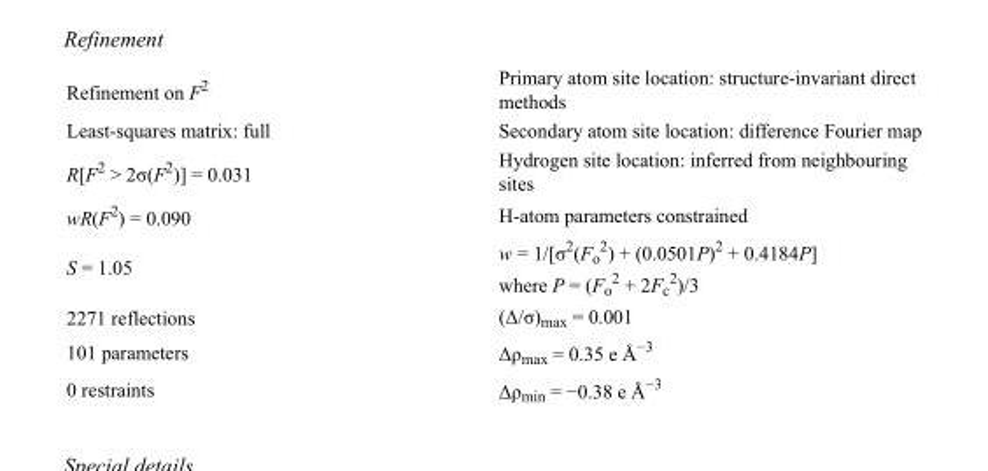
<table><tbody><tr><td>Refinement on F<sup>2</sup></td><td>Primary atom site location: structure-invariant direct methods</td></tr><tr><td>Least-squares matrix: full</td><td>Secondary atom site location: difference Fourier map</td></tr><tr><td>R[F<sup>2</sup> &gt; 2σ(F<sup>2</sup>)] = 0.031</td><td>Hydrogen site location: inferred from neighbouring sites</td></tr><tr><td>wR(F<sup>2</sup>) = 0.090</td><td>H-atom parameters constrained</td></tr><tr><td>S = 1.05</td><td>w = 1/[σ<sup>2</sup>(F<sub>o</sub> <sup>2</sup>) + (0.0501P)<sup>2</sup> + 0.4184P] where P = (F<sub>o</sub> <sup>2</sup> + 2F<sub>c</sub> <sup>2</sup>)/3</td></tr><tr><td>2271 reflections</td><td>(Δ/σ)<sub>max</sub> = 0.001</td></tr><tr><td>101 parameters</td><td>Δρ<sub>max</sub> = 0.35 e Å<sup>−3</sup></td></tr><tr><td>0 restraints</td><td>Δρ<sub>min</sub> = −0.38 e Å<sup>−3</sup></td></tr></tbody></table>